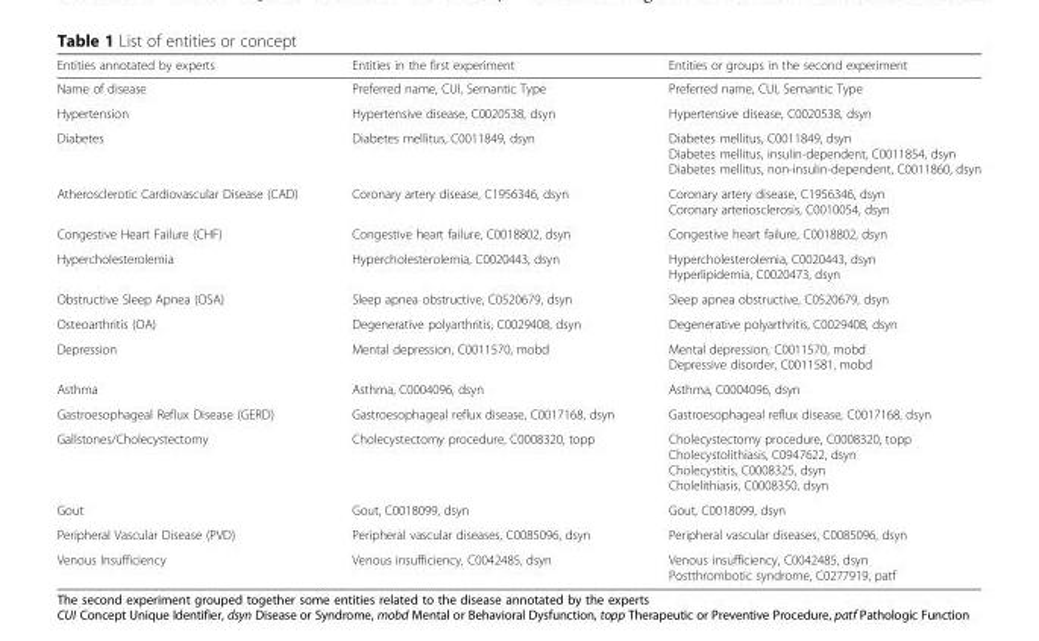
<table><thead><tr><td>Entities annotated by experts</td><td>Entities in the first experiment</td><td>Entities or groups in the second experiment</td></tr></thead><tbody><tr><td>Name of disease</td><td>Preferred name, CUI, Semantic Type</td><td>Preferred name, CUI, Semantic Type</td></tr><tr><td>Hypertension</td><td>Hypertensive disease, C0020538, dsyn</td><td>Hypertensive disease, C0020538, dsyn</td></tr><tr><td>Diabetes</td><td>Diabetes mellitus, C0011849, dsyn</td><td>Diabetes mellitus, C0011849, dsyn Diabetes mellitus, insulin-dependent, C0011854, dsyn Diabetes mellitus, non-insulin-dependent, C0011860, dsyn</td></tr><tr><td>Atherosclerotic Cardiovascular Disease (CAD)</td><td>Coronary artery disease, C1956346, dsyn</td><td>Coronary artery disease, C1956346, dsyn Coronary arteriosclerosis, C0010054, dsyn</td></tr><tr><td>Congestive Heart Failure (CHF)</td><td>Congestive heart failure, C0018802, dsyn</td><td>Congestive heart failure, C0018802, dsyn</td></tr><tr><td>Hypercholesterolemia</td><td>Hypercholesterolemia, C0020443, dsyn</td><td>Hypercholesterolemia, C0020443, dsyn Hyperlipidemia, C0020473, dsyn</td></tr><tr><td>Obstructive Sleep Apnea (OSA)</td><td>Sleep apnea obstructive, C0520679, dsyn</td><td>Sleep apnea obstructive, C0520679, dsyn</td></tr><tr><td>Osteoarthritis (OA)</td><td>Degenerative polyarthritis, C0029408, dsyn</td><td>Degenerative polyarthritis, C0029408, dsyn</td></tr><tr><td>Depression</td><td>Mental depression, C0011570, mobd</td><td>Mental depression, C0011570, mobd Depressive disorder, C0011581, mobd</td></tr><tr><td>Asthma</td><td>Asthma, C0004096, dsyn</td><td>Asthma, C0004096, dsyn</td></tr><tr><td>Gastroesophageal Reflux Disease (GERD)</td><td>Gastroesophageal reflux disease, C0017168, dsyn</td><td>Gastroesophageal reflux disease, C0017168, dsyn</td></tr><tr><td>Gallstones/Cholecystectomy</td><td>Cholecystectomy procedure, C0008320, topp</td><td>Cholecystectomy procedure, C0008320, topp Cholecystolithiasis, C0947622, dsyn Cholecystitis, C0008325, dsyn Cholelithiasis, C0008350, dsyn</td></tr><tr><td>Gout</td><td>Gout, C0018099, dsyn</td><td>Gout, C0018099, dsyn</td></tr><tr><td>Peripheral Vascular Disease (PVD)</td><td>Peripheral vascular diseases, C0085096, dsyn</td><td>Peripheral vascular diseases, C0085096, dsyn</td></tr><tr><td>Venous Insufficiency</td><td>Venous insufficiency, C0042485, dsyn</td><td>Venous insufficiency, C0042485, dsyn Postthrombotic syndrome, C0277919, patf</td></tr></tbody></table>